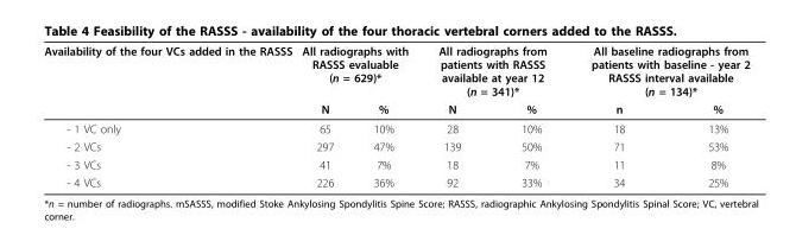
<table><thead><tr><td rowspan="2">Availability of the four VCs added in the RASSS</td><td colspan="2">All radiographs with RASSS evaluable (n = 629)*</td><td colspan="2">All radiographs from patients with RASSS available at year 12 (n = 341)*</td><td colspan="2">All baseline radiographs from patients with baseline - year 2 RASSS interval available (n = 134)*</td></tr><tr><td>N</td><td>%</td><td>N</td><td>%</td><td>n</td><td>%</td></tr></thead><tbody><tr><td>- 1 VC only</td><td>65</td><td>10%</td><td>28</td><td>10%</td><td>18</td><td>13%</td></tr><tr><td>- 2 VCs</td><td>297</td><td>47%</td><td>139</td><td>50%</td><td>71</td><td>53%</td></tr><tr><td>- 3 VCs</td><td>41</td><td>7%</td><td>18</td><td>7%</td><td>11</td><td>8%</td></tr><tr><td>- 4 VCs</td><td>226</td><td>36%</td><td>92</td><td>33%</td><td>34</td><td>25%</td></tr></tbody></table>